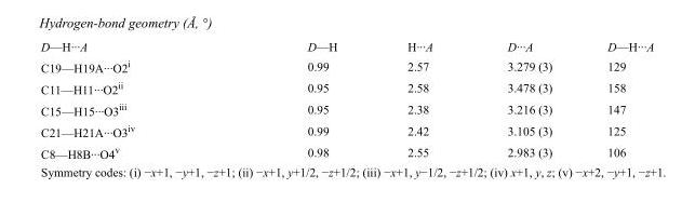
<table><tbody><tr><td>D—H···A</td><td>D—H</td><td>H···A</td><td>D···A</td><td>D—H···A</td></tr><tr><td>C19—H19A···O2<sup>i</sup></td><td>0.99</td><td>2.57</td><td>3.279 (3)</td><td>129</td></tr><tr><td>C11—H11···O2<sup>ii</sup></td><td>0.95</td><td>2.58</td><td>3.478 (3)</td><td>158</td></tr><tr><td>C15—H15···O3<sup>iii</sup></td><td>0.95</td><td>2.38</td><td>3.216 (3)</td><td>147</td></tr><tr><td>C21—H21A···O3<sup>iv</sup></td><td>0.99</td><td>2.42</td><td>3.105 (3)</td><td>125</td></tr><tr><td>C8—H8B···O4<sup>v</sup></td><td>0.98</td><td>2.55</td><td>2.983 (3)</td><td>106</td></tr></tbody></table>